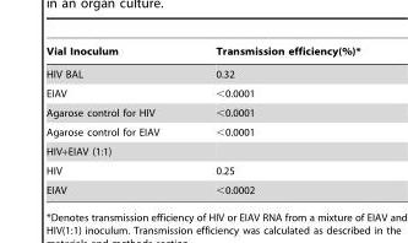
<table><thead><tr><td>Vial Inoculum</td><td>Transmission efficiency(%)*</td></tr></thead><tbody><tr><td>HIV BAL</td><td>0.32</td></tr><tr><td>EIAV</td><td>&lt;0.0001</td></tr><tr><td>Agarose control for HIV</td><td>&lt;0.0001</td></tr><tr><td>Agarose control for EIAV</td><td>&lt;0.0001</td></tr><tr><td colspan="2">HIV+EIAV (1:1)</td></tr><tr><td>HIV</td><td>0.25</td></tr><tr><td>EIAV</td><td>&lt;0.0002</td></tr></tbody></table>